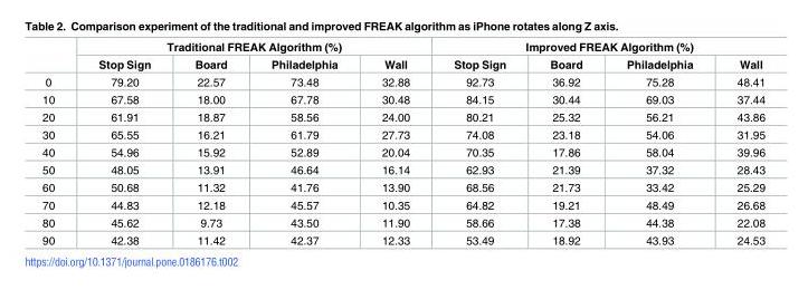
<table><thead><tr><td rowspan="2"></td><td colspan="4">Traditional FREAK Algorithm (%)</td><td colspan="4">Improved FREAK Algorithm (%)</td></tr><tr><td>Stop Sign</td><td>Board</td><td>Philadelphia</td><td>Wall</td><td>Stop Sign</td><td>Board</td><td>Philadelphia</td><td>Wall</td></tr></thead><tbody><tr><td>0</td><td>79.20</td><td>22.57</td><td>73.48</td><td>32.88</td><td>92.73</td><td>36.92</td><td>75.28</td><td>48.41</td></tr><tr><td>10</td><td>67.58</td><td>18.00</td><td>67.78</td><td>30.48</td><td>84.15</td><td>30.44</td><td>69.03</td><td>37.44</td></tr><tr><td>20</td><td>61.91</td><td>18.87</td><td>58.56</td><td>24.00</td><td>80.21</td><td>25.32</td><td>56.21</td><td>43.86</td></tr><tr><td>30</td><td>65.55</td><td>16.21</td><td>61.79</td><td>27.73</td><td>74.08</td><td>23.18</td><td>54.06</td><td>31.95</td></tr><tr><td>40</td><td>54.96</td><td>15.92</td><td>52.89</td><td>20.04</td><td>70.35</td><td>17.86</td><td>58.04</td><td>39.96</td></tr><tr><td>50</td><td>48.05</td><td>13.91</td><td>46.64</td><td>16.14</td><td>62.93</td><td>21.39</td><td>37.32</td><td>28.43</td></tr><tr><td>60</td><td>50.68</td><td>11.32</td><td>41.76</td><td>13.90</td><td>68.56</td><td>21.73</td><td>33.42</td><td>25.29</td></tr><tr><td>70</td><td>44.83</td><td>12.18</td><td>45.57</td><td>10.35</td><td>64.82</td><td>19.21</td><td>48.49</td><td>26.68</td></tr><tr><td>80</td><td>45.62</td><td>9.73</td><td>43.50</td><td>11.90</td><td>58.66</td><td>17.38</td><td>44.38</td><td>22.08</td></tr><tr><td>90</td><td>42.38</td><td>11.42</td><td>42.37</td><td>12.33</td><td>53.49</td><td>18.92</td><td>43.93</td><td>24.53</td></tr></tbody></table>